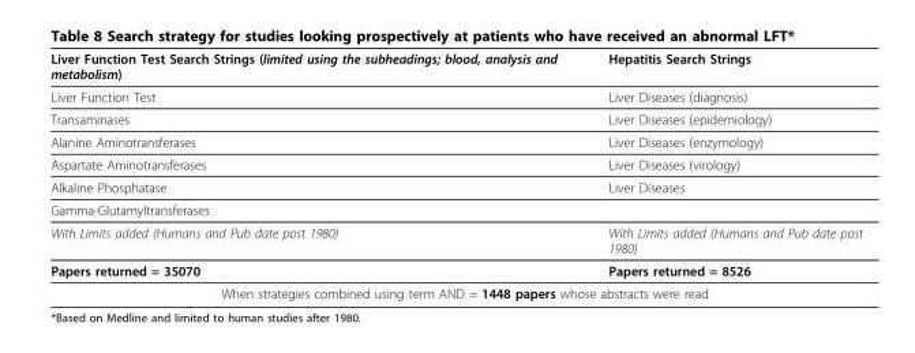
<table><thead><tr><td>Liver Function Test Search Strings (limited using the subheadings; blood, analysis and metabolism)</td><td>Hepatitis Search Strings</td></tr></thead><tbody><tr><td>Liver Function Test</td><td>Liver Diseases (diagnosis)</td></tr><tr><td>Transaminases</td><td>Liver Diseases (epidemiology)</td></tr><tr><td>Alanine Aminotransferases</td><td>Liver Diseases (enzymology)</td></tr><tr><td>Aspartate Aminotransferases</td><td>Liver Diseases (virology)</td></tr><tr><td>Alkaline Phosphatase</td><td>Liver Diseases</td></tr><tr><td colspan="2">Gamma-Glutamyltransferases</td></tr><tr><td>With Limits added (Humans and Pub date post 1980)</td><td>With Limits added (Humans and Pub date post 1980)</td></tr><tr><td>Papers returned = 35070</td><td>Papers returned = 8526</td></tr><tr><td colspan="2">When strategies combined using term AND = 1448 papers whose abstracts were read</td></tr></tbody></table>